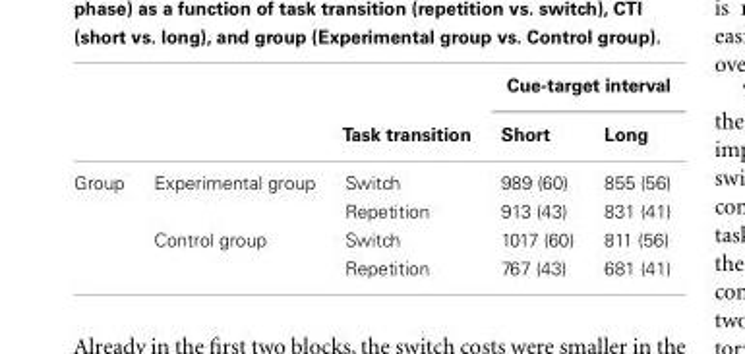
<table><thead><tr><td rowspan="2"></td><td rowspan="2"></td><td rowspan="2">Task transition</td><td colspan="2">Cue-target interval</td></tr><tr><td>Short</td><td>Long</td></tr></thead><tbody><tr><td rowspan="4">Group</td><td>Experimental group</td><td>Switch</td><td>989 (60)</td><td>855 (56)</td></tr><tr><td></td><td>Repetition</td><td>913 (43)</td><td>831 (41)</td></tr><tr><td>Control group</td><td>Switch</td><td>1017 (60)</td><td>811 (56)</td></tr><tr><td></td><td>Repetition</td><td>767 (43)</td><td>681 (41)</td></tr></tbody></table>